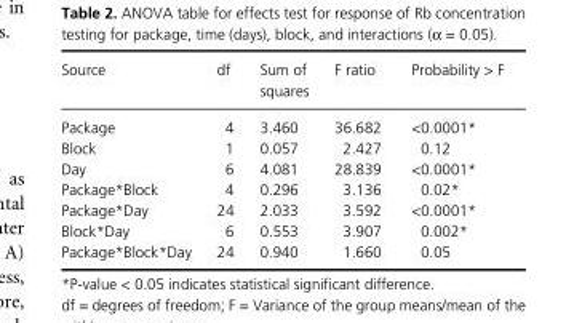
<table><thead><tr><td>Source</td><td>df</td><td>Sum of squares</td><td>F ratio</td><td>Probability &gt; F</td></tr></thead><tbody><tr><td>Package</td><td>4</td><td>3.460</td><td>36.682</td><td>&lt;0.0001 *</td></tr><tr><td>Block</td><td>1</td><td>0.057</td><td>2.427</td><td>0.12</td></tr><tr><td>Day</td><td>6</td><td>4.081</td><td>28.839</td><td>&lt;0.0001 *</td></tr><tr><td>Package*Block</td><td>4</td><td>0.296</td><td>3.136</td><td>0.02 *</td></tr><tr><td>Package*Day</td><td>24</td><td>2.033</td><td>3.592</td><td>&lt;0.0001 *</td></tr><tr><td>Block*Day</td><td>6</td><td>0.553</td><td>3.907</td><td>0.002 *</td></tr><tr><td>Package*Block*Day</td><td>24</td><td>0.940</td><td>1.660</td><td>0.05</td></tr></tbody></table>